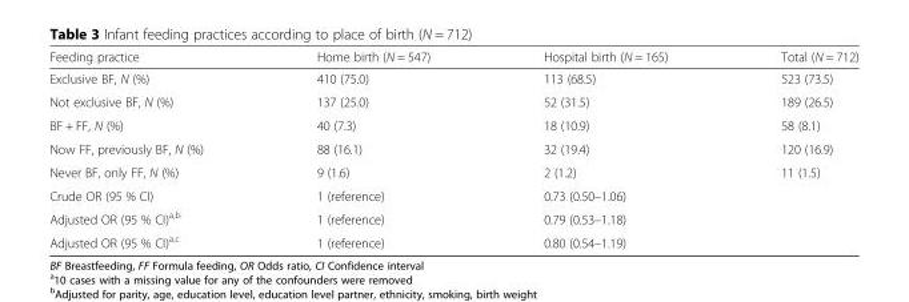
<table><thead><tr><td>Feeding practice</td><td>Home birth (N = 547)</td><td>Hospital birth (N = 165)</td><td>Total (N = 712)</td></tr></thead><tbody><tr><td>Exclusive BF, N (%)</td><td>410 (75.0)</td><td>113 (68.5)</td><td>523 (73.5)</td></tr><tr><td>Not exclusive BF, N (%)</td><td>137 (25.0)</td><td>52 (31.5)</td><td>189 (26.5)</td></tr><tr><td>BF + FF, N (%)</td><td>40 (7.3)</td><td>18 (10.9)</td><td>58 (8.1)</td></tr><tr><td>Now FF, previously BF, N (%)</td><td>88 (16.1)</td><td>32 (19.4)</td><td>120 (16.9)</td></tr><tr><td>Never BF, only FF, N (%)</td><td>9 (1.6)</td><td>2 (1.2)</td><td>11 (1.5)</td></tr><tr><td>Crude OR (95 % CI)</td><td>1 (reference)</td><td>0.73 (0.50–1.06)</td><td></td></tr><tr><td>Adjusted OR (95 % CI)<sup>a,b</sup></td><td>1 (reference)</td><td>0.79 (0.53–1.18)</td><td></td></tr><tr><td>Adjusted OR (95 % CI)<sup>a,c</sup></td><td>1 (reference)</td><td>0.80 (0.54–1.19)</td><td></td></tr></tbody></table>